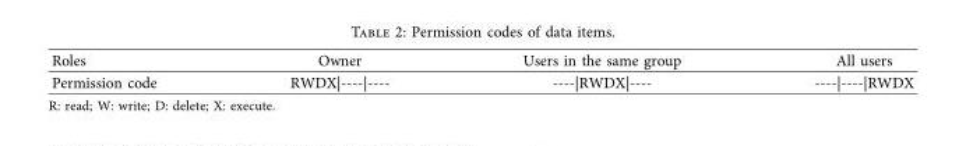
<table><thead><tr><td>Roles</td><td>Owner</td><td>Users in the same group</td><td>All users</td></tr></thead><tbody><tr><td>Permission code</td><td>RWDX|----|----</td><td>----|RWDX|----</td><td>----|----|RWDX</td></tr></tbody></table>